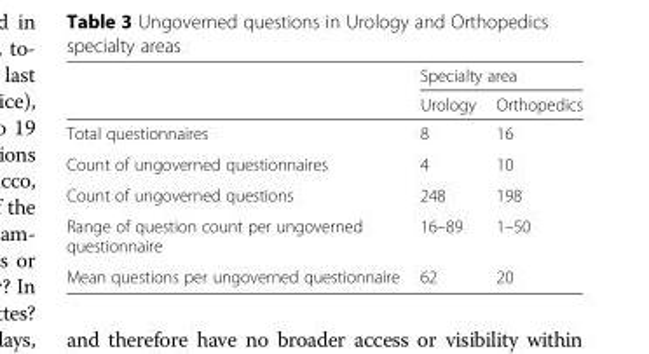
<table><thead><tr><td rowspan="2"></td><td colspan="2">Specialty area</td></tr><tr><td>Urology</td><td>Orthopedics</td></tr></thead><tbody><tr><td>Total questionnaires</td><td>8</td><td>16</td></tr><tr><td>Count of ungoverned questionnaires</td><td>4</td><td>10</td></tr><tr><td>Count of ungoverned questions</td><td>248</td><td>198</td></tr><tr><td>Range of question count per ungoverned questionnaire</td><td>16–89</td><td>1–50</td></tr><tr><td>Mean questions per ungoverned questionnaire</td><td>62</td><td>20</td></tr></tbody></table>